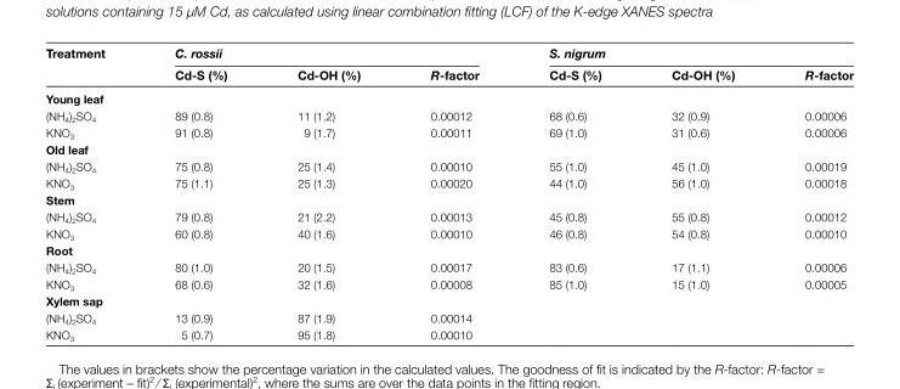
<table><thead><tr><td rowspan="2">Treatment</td><td colspan="3">C. rossii</td><td colspan="3">S. nigrum</td></tr><tr><td>Cd-S (%)</td><td>Cd-OH (%)</td><td>R-factor</td><td>Cd-S (%)</td><td>Cd-OH (%)</td><td>R-factor</td></tr></thead><tbody><tr><td colspan="7">Young leaf</td></tr><tr><td>(NH<sub>4</sub>)<sub>2</sub>SO<sub>4</sub></td><td>89 (0.8)</td><td>11 (1.2)</td><td>0.00012</td><td>68 (0.6)</td><td>32 (0.9)</td><td>0.00006</td></tr><tr><td>KNO<sub>3</sub></td><td>91 (0.8)</td><td>9 (1.7)</td><td>0.00011</td><td>69 (1.0)</td><td>31 (0.6)</td><td>0.00006</td></tr><tr><td colspan="7">Old leaf</td></tr><tr><td>(NH<sub>4</sub>)<sub>2</sub>SO<sub>4</sub></td><td>75 (0.8)</td><td>25 (1.4)</td><td>0.00010</td><td>55 (1.0)</td><td>45 (1.0)</td><td>0.00019</td></tr><tr><td>KNO<sub>3</sub></td><td>75 (1.1)</td><td>25 (1.3)</td><td>0.00020</td><td>44 (1.0)</td><td>56 (1.0)</td><td>0.00018</td></tr><tr><td colspan="7">Stem</td></tr><tr><td>(NH<sub>4</sub>)<sub>2</sub>SO<sub>4</sub></td><td>79 (0.8)</td><td>21 (2.2)</td><td>0.00013</td><td>45 (0.8)</td><td>55 (0.8)</td><td>0.00012</td></tr><tr><td>KNO<sub>3</sub></td><td>60 (0.8)</td><td>40 (1.6)</td><td>0.00010</td><td>46 (0.8)</td><td>54 (0.8)</td><td>0.00010</td></tr><tr><td colspan="7">Root</td></tr><tr><td>(NH<sub>4</sub>)<sub>2</sub>SO<sub>4</sub></td><td>80 (1.0)</td><td>20 (1.5)</td><td>0.00017</td><td>83 (0.6)</td><td>17 (1.1)</td><td>0.00006</td></tr><tr><td>KNO<sub>3</sub></td><td>68 (0.6)</td><td>32 (1.6)</td><td>0.00008</td><td>85 (1.0)</td><td>15 (1.0)</td><td>0.00005</td></tr><tr><td colspan="7">Xylem sap</td></tr><tr><td>(NH<sub>4</sub>)<sub>2</sub>SO<sub>4</sub></td><td>13 (0.9)</td><td>87 (1.9)</td><td>0.00014</td><td></td><td></td><td></td></tr><tr><td>KNO<sub>3</sub></td><td>5 (0.7)</td><td>95 (1.8)</td><td>0.00010</td><td></td><td></td><td></td></tr></tbody></table>